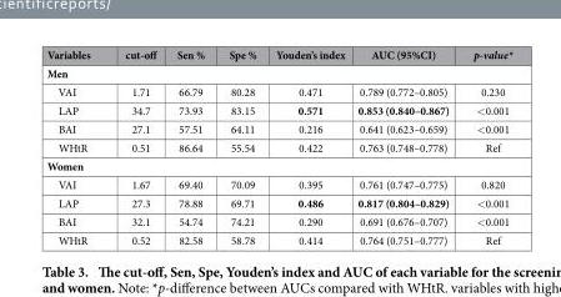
<table><thead><tr><td>Variables</td><td>cut-off</td><td>Sen %</td><td>Spe %</td><td>Youden’s index</td><td>AUC (95%CI)</td><td>p-value*</td></tr></thead><tbody><tr><td colspan="7">Men</td></tr><tr><td>VAI</td><td>1.71</td><td>66.79</td><td>80.28</td><td>0.471</td><td>0.789 (0.772–0.805)</td><td>0.230</td></tr><tr><td>LAP</td><td>34.7</td><td>73.93</td><td>83.15</td><td>0.571</td><td>0.853 (0.840–0.867)</td><td>&lt; 0.001</td></tr><tr><td>BAI</td><td>27.1</td><td>57.51</td><td>64.11</td><td>0.216</td><td>0.641 (0.623–0.659)</td><td>&lt; 0.001</td></tr><tr><td>WHtR</td><td>0.51</td><td>86.64</td><td>55.54</td><td>0.422</td><td>0.763 (0.748–0.778)</td><td>Ref</td></tr><tr><td colspan="7">Women</td></tr><tr><td>VAI</td><td>1.67</td><td>69.40</td><td>70.09</td><td>0.395</td><td>0.761 (0.747–0.775)</td><td>0.820</td></tr><tr><td>LAP</td><td>27.3</td><td>78.88</td><td>69.71</td><td>0.486</td><td>0.817 (0.804–0.829)</td><td>&lt; 0.001</td></tr><tr><td>BAI</td><td>32.1</td><td>54.74</td><td>74.21</td><td>0.290</td><td>0.691 (0.676–0.707)</td><td>&lt; 0.001</td></tr><tr><td>WHtR</td><td>0.52</td><td>82.58</td><td>58.78</td><td>0.414</td><td>0.764 (0.751–0.777)</td><td>Ref</td></tr></tbody></table>